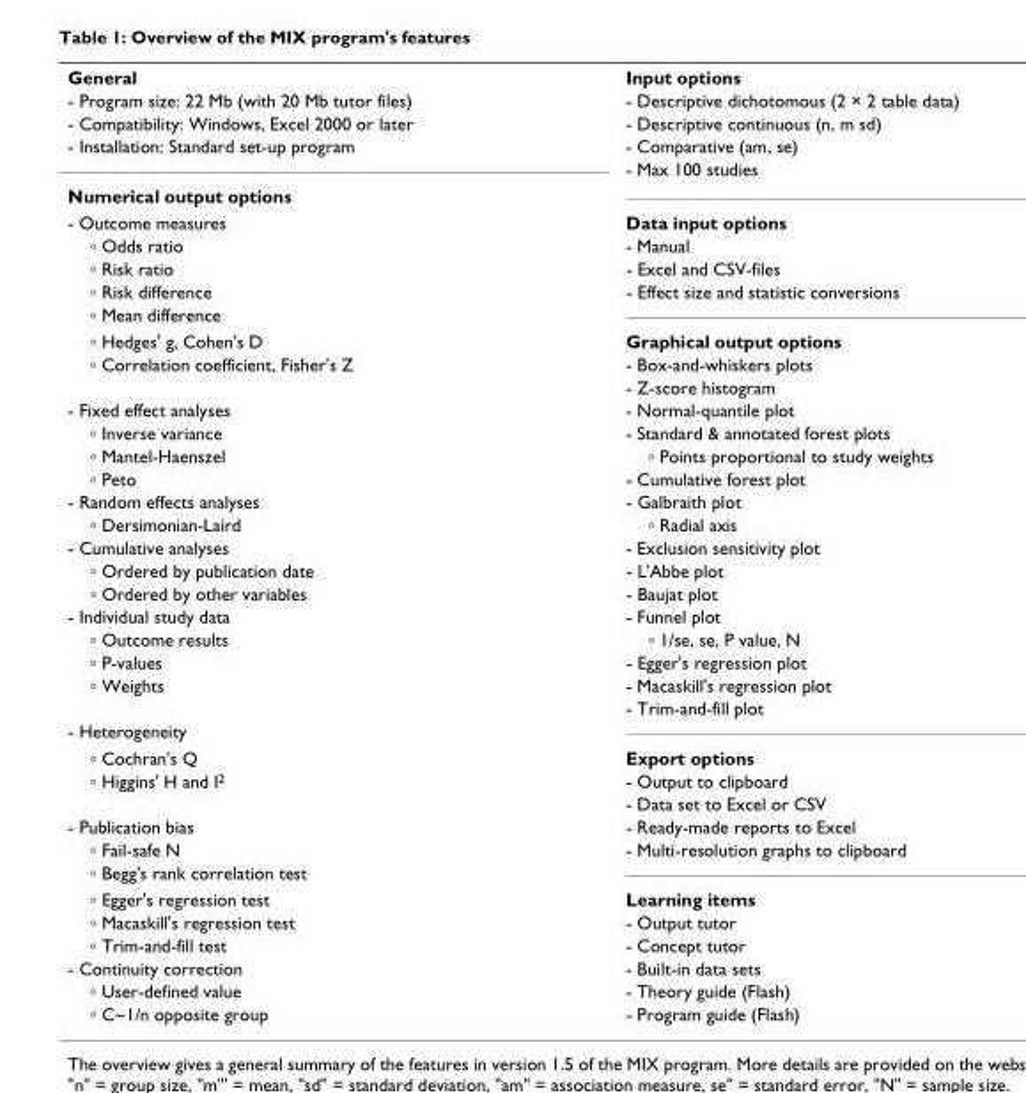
<table><tbody><tr><td>General</td><td>Input options</td></tr><tr><td>- Program size: 22 Mb (with 20 Mb tutor files)</td><td>- Descriptive dichotomous (2 × 2 table data)</td></tr><tr><td>- Compatibility: Windows, Excel 2000 or later</td><td>- Descriptive continuous (n, m sd)</td></tr><tr><td rowspan="2">- Installation: Standard set-up program</td><td>- Comparative (am, se)</td></tr><tr><td>- Max 100 studies</td></tr><tr><td colspan="2">Numerical output options</td></tr><tr><td>- Outcome measures</td><td>Data input options</td></tr><tr><td>◦ Odds ratio</td><td>- Manual</td></tr><tr><td>◦ Risk ratio</td><td>- Excel and CSV-files</td></tr><tr><td>◦ Risk difference</td><td>- Effect size and statistic conversions</td></tr><tr><td colspan="2">◦ Mean difference</td></tr><tr><td>◦ Hedges&#x27; g, Cohen&#x27;s D</td><td>Graphical output options</td></tr><tr><td rowspan="2">◦ Correlation coefficient, Fisher&#x27;s Z</td><td>- Box-and-whiskers plots</td></tr><tr><td>- Z-score histogram</td></tr><tr><td>- Fixed effect analyses</td><td>- Normal-quantile plot</td></tr><tr><td>◦ Inverse variance</td><td>- Standard &amp; annotated forest plots</td></tr><tr><td>◦ Mantel-Haenszel</td><td>◦ Points proportional to study weights</td></tr><tr><td>◦ Peto</td><td>- Cumulative forest plot</td></tr><tr><td>- Random effects analyses</td><td>- Galbraith plot</td></tr><tr><td>◦ Dersimonian-Laird</td><td>◦ Radial axis</td></tr><tr><td>- Cumulative analyses</td><td>- Exclusion sensitivity plot</td></tr><tr><td>◦ Ordered by publication date</td><td>- L&#x27;Abbe plot</td></tr><tr><td>◦ Ordered by other variables</td><td>- Baujat plot</td></tr><tr><td>- Individual study data</td><td>- Funnel plot</td></tr><tr><td>◦ Outcome results</td><td>◦ 1/se, se, P value, N</td></tr><tr><td>◦ P-values</td><td>- Egger&#x27;s regression plot</td></tr><tr><td rowspan="2">◦ Weights</td><td>- Macaskill&#x27;s regression plot</td></tr><tr><td>- Trim-and-fill plot</td></tr><tr><td colspan="2">- Heterogeneity</td></tr><tr><td>◦ Cochran&#x27;s Q</td><td>Export options</td></tr><tr><td rowspan="2">◦ Higgins&#x27; H and I<sup>2</sup></td><td>- Output to clipboard</td></tr><tr><td>- Data set to Excel or CSV</td></tr><tr><td>- Publication bias</td><td>- Ready-made reports to Excel</td></tr><tr><td>◦ Fail-safe N</td><td>- Multi-resolution graphs to clipboard</td></tr><tr><td colspan="2">◦ Begg&#x27;s rank correlation test</td></tr><tr><td>◦ Egger&#x27;s regression test</td><td>Learning items</td></tr><tr><td>◦ Macaskill&#x27;s regression test</td><td>- Output tutor</td></tr><tr><td>◦ Trim-and-fill test</td><td>- Concept tutor</td></tr><tr><td>- Continuity correction</td><td>- Built-in data sets</td></tr><tr><td>◦ User-defined value</td><td>- Theory guide (Flash)</td></tr><tr><td>◦ C~1/n opposite group</td><td>- Program guide (Flash)</td></tr></tbody></table>